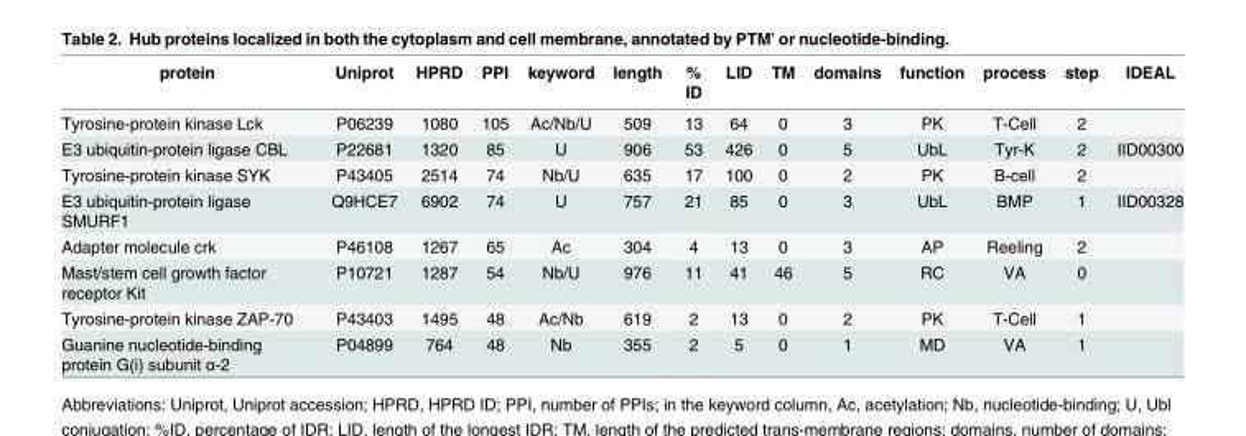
<table><thead><tr><td>protein</td><td>Uniprot</td><td>HPRD</td><td>PPI</td><td>keyword</td><td>length</td><td>% ID</td><td>LID</td><td>TM</td><td>domains</td><td>function</td><td>process</td><td>step</td><td>IDEAL</td></tr></thead><tbody><tr><td>Tyrosine-protein kinase Lck</td><td>P06239</td><td>1080</td><td>105</td><td>Ac/Nb/U</td><td>509</td><td>13</td><td>64</td><td>0</td><td>3</td><td>PK</td><td>T-Cell</td><td>2</td><td></td></tr><tr><td>E3 ubiquitin-protein ligase CBL</td><td>P22681</td><td>1320</td><td>85</td><td>U</td><td>906</td><td>53</td><td>426</td><td>0</td><td>5</td><td>UbL</td><td>Tyr-K</td><td>2</td><td>IID00300</td></tr><tr><td>Tyrosine-protein kinase SYK</td><td>P43405</td><td>2514</td><td>74</td><td>Nb/U</td><td>635</td><td>17</td><td>100</td><td>0</td><td>2</td><td>PK</td><td>B-cell</td><td>2</td><td></td></tr><tr><td>E3 ubiquitin-protein ligase SMURF1</td><td>Q9HCE7</td><td>6902</td><td>74</td><td>U</td><td>757</td><td>21</td><td>85</td><td>0</td><td>3</td><td>UbL</td><td>BMP</td><td>1</td><td>IID00328</td></tr><tr><td>Adapter molecule crk</td><td>P46108</td><td>1267</td><td>65</td><td>Ac</td><td>304</td><td>4</td><td>13</td><td>0</td><td>3</td><td>AP</td><td>Reeling</td><td>2</td><td></td></tr><tr><td>Mast/stem cell growth factor receptor Kit</td><td>P10721</td><td>1287</td><td>54</td><td>Nb/U</td><td>976</td><td>11</td><td>41</td><td>46</td><td>5</td><td>RC</td><td>VA</td><td>0</td><td></td></tr><tr><td>Tyrosine-protein kinase ZAP-70</td><td>P43403</td><td>1495</td><td>48</td><td>Ac/Nb</td><td>619</td><td>2</td><td>13</td><td>0</td><td>2</td><td>PK</td><td>T-Cell</td><td>1</td><td></td></tr><tr><td>Guanine nucleotide-binding protein G(i) subunit α-2</td><td>P04899</td><td>764</td><td>48</td><td>Nb</td><td>355</td><td>2</td><td>5</td><td>0</td><td>1</td><td>MD</td><td>VA</td><td>1</td><td></td></tr></tbody></table>